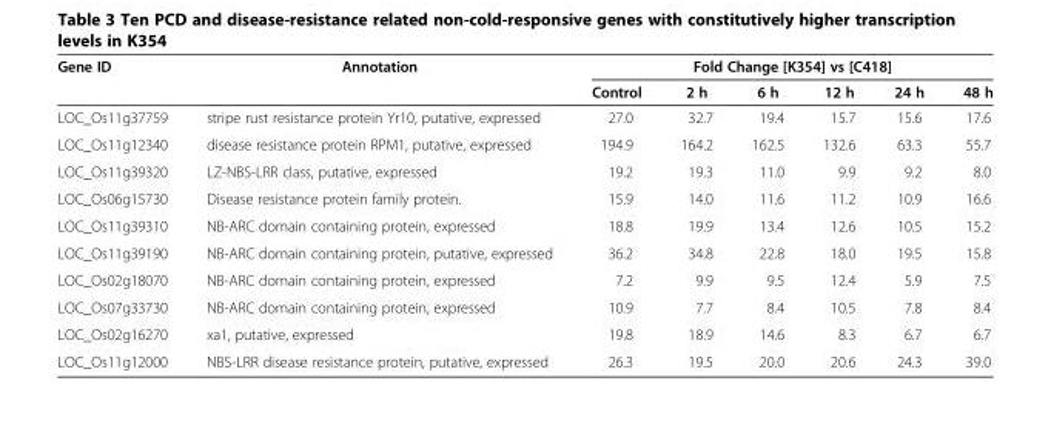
<table><thead><tr><td rowspan="2">Gene ID</td><td rowspan="2">Annotation</td><td colspan="6">Fold Change [K354] vs [C418]</td></tr><tr><td>Control</td><td>2 h</td><td>6 h</td><td>12 h</td><td>24 h</td><td>48 h</td></tr></thead><tbody><tr><td>LOC_Os11g37759</td><td>stripe rust resistance protein Yr10, putative, expressed</td><td>27.0</td><td>32.7</td><td>19.4</td><td>15.7</td><td>15.6</td><td>17.6</td></tr><tr><td>LOC_Os11g12340</td><td>disease resistance protein RPM1, putative, expressed</td><td>194.9</td><td>164.2</td><td>162.5</td><td>132.6</td><td>63.3</td><td>55.7</td></tr><tr><td>LOC_Os11g39320</td><td>LZ-NBS-LRR class, putative, expressed</td><td>19.2</td><td>19.3</td><td>11.0</td><td>9.9</td><td>9.2</td><td>8.0</td></tr><tr><td>LOC_Os06g15730</td><td>Disease resistance protein family protein.</td><td>15.9</td><td>14.0</td><td>11.6</td><td>11.2</td><td>10.9</td><td>16.6</td></tr><tr><td>LOC_Os11g39310</td><td>NB-ARC domain containing protein, expressed</td><td>18.8</td><td>19.9</td><td>13.4</td><td>12.6</td><td>10.5</td><td>15.2</td></tr><tr><td>LOC_Os11g39190</td><td>NB-ARC domain containing protein, putative, expressed</td><td>36.2</td><td>34.8</td><td>22.8</td><td>18.0</td><td>19.5</td><td>15.8</td></tr><tr><td>LOC_Os02g18070</td><td>NB-ARC domain containing protein, expressed</td><td>7.2</td><td>9.9</td><td>9.5</td><td>12.4</td><td>5.9</td><td>7.5</td></tr><tr><td>LOC_Os07g33730</td><td>NB-ARC domain containing protein, expressed</td><td>10.9</td><td>7.7</td><td>8.4</td><td>10.5</td><td>7.8</td><td>8.4</td></tr><tr><td>LOC_Os02g16270</td><td>xa1, putative, expressed</td><td>19.8</td><td>18.9</td><td>14.6</td><td>8.3</td><td>6.7</td><td>6.7</td></tr><tr><td>LOC_Os11g12000</td><td>NBS-LRR disease resistance protein, putative, expressed</td><td>26.3</td><td>19.5</td><td>20.0</td><td>20.6</td><td>24.3</td><td>39.0</td></tr></tbody></table>